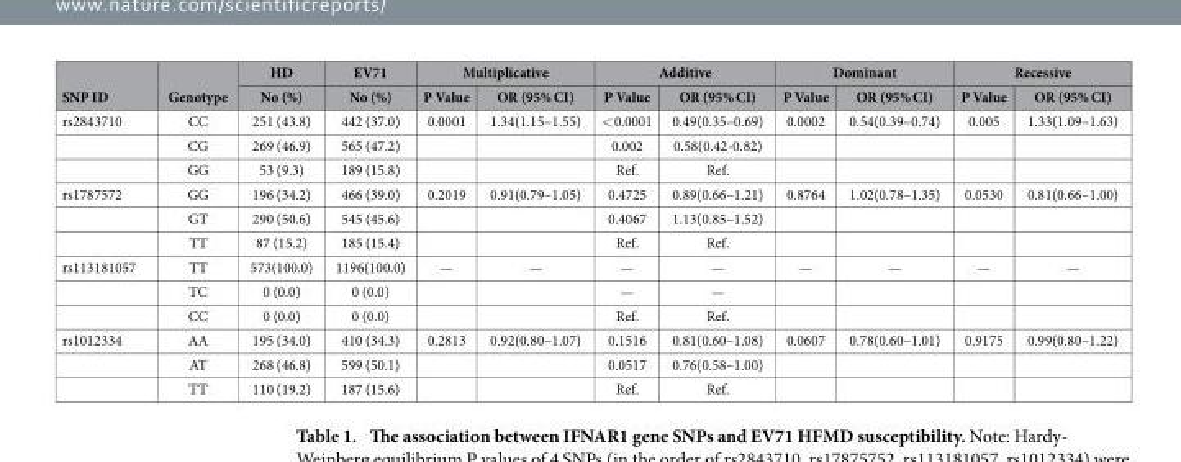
<table><thead><tr><td rowspan="2">SNP ID</td><td rowspan="2">Genotype</td><td rowspan="2">HD No (%)</td><td rowspan="2">EV71 No (%)</td><td colspan="2">Multiplicative</td><td colspan="2">Additive</td><td colspan="2">Dominant</td><td colspan="2">Recessive</td></tr><tr><td>P Value</td><td>OR (95% CI)</td><td>P Value</td><td>OR (95% CI)</td><td>P Value</td><td>OR (95% CI)</td><td>P Value</td><td>OR (95% CI)</td></tr></thead><tbody><tr><td rowspan="3">rs2843710</td><td>CC</td><td>251 (43.8)</td><td>442 (37.0)</td><td>0.0001</td><td>1.34(1.15–1.55)</td><td>&lt; 0.0001</td><td>0.49(0.35–0.69)</td><td>0.0002</td><td>0.54(0.39–0.74)</td><td>0.005</td><td>1.33(1.09–1.63)</td></tr><tr><td>CG</td><td>269 (46.9)</td><td>565 (47.2)</td><td></td><td></td><td>0.002</td><td>0.58(0.42-0.82)</td><td></td><td></td><td></td><td></td></tr><tr><td>GG</td><td>53 (9.3)</td><td>189 (15.8)</td><td></td><td></td><td>Ref.</td><td>Ref.</td><td></td><td></td><td></td><td></td></tr><tr><td rowspan="3">rs1787572</td><td>GG</td><td>196 (34.2)</td><td>466 (39.0)</td><td>0.2019</td><td>0.91(0.79–1.05)</td><td>0.4725</td><td>0.89(0.66–1.21)</td><td>0.8764</td><td>1.02(0.78–1.35)</td><td>0.0530</td><td>0.81(0.66–1.00)</td></tr><tr><td>GT</td><td>290 (50.6)</td><td>545 (45.6)</td><td></td><td></td><td>0.4067</td><td>1.13(0.85–1.52)</td><td></td><td></td><td></td><td></td></tr><tr><td>TT</td><td>87 (15.2)</td><td>185 (15.4)</td><td></td><td></td><td>Ref.</td><td>Ref.</td><td></td><td></td><td></td><td></td></tr><tr><td rowspan="3">rs113181057</td><td>TT</td><td>573(100.0)</td><td>1196(100.0)</td><td>—</td><td>—</td><td>—</td><td>—</td><td>—</td><td>—</td><td>—</td><td>—</td></tr><tr><td>TC</td><td>0 (0.0)</td><td>0 (0.0)</td><td></td><td></td><td>—</td><td>—</td><td></td><td></td><td></td><td></td></tr><tr><td>CC</td><td>0 (0.0)</td><td>0 (0.0)</td><td></td><td></td><td>Ref.</td><td>Ref.</td><td></td><td></td><td></td><td></td></tr><tr><td rowspan="3">rs1012334</td><td>AA</td><td>195 (34.0)</td><td>410 (34.3)</td><td>0.2813</td><td>0.92(0.80–1.07)</td><td>0.1516</td><td>0.81(0.60–1.08)</td><td>0.0607</td><td>0.78(0.60–1.01)</td><td>0.9175</td><td>0.99(0.80–1.22)</td></tr><tr><td>AT</td><td>268 (46.8)</td><td>599 (50.1)</td><td></td><td></td><td>0.0517</td><td>0.76(0.58–1.00)</td><td></td><td></td><td></td><td></td></tr><tr><td>TT</td><td>110 (19.2)</td><td>187 (15.6)</td><td></td><td></td><td>Ref.</td><td>Ref.</td><td></td><td></td><td></td><td></td></tr></tbody></table>